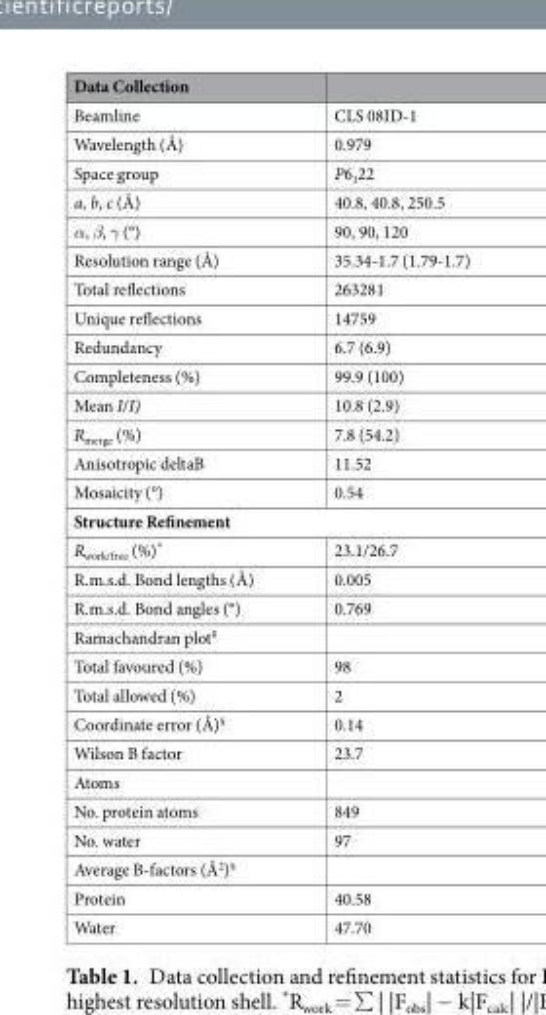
<table><thead><tr><td>Data Collection</td><td></td></tr></thead><tbody><tr><td>Beamline</td><td>CLS 08ID-1</td></tr><tr><td>Wavelength (Å)</td><td>0.979</td></tr><tr><td>Space group</td><td>P6<sub>1</sub>22</td></tr><tr><td>a, b, c (Å)</td><td>40.8, 40.8, 250.5</td></tr><tr><td>α, β, γ (°)</td><td>90, 90, 120</td></tr><tr><td>Resolution range (Å)</td><td>35.34-1.7 (1.79-1.7)</td></tr><tr><td>Total reflections</td><td>263281</td></tr><tr><td>Unique reflections</td><td>14759</td></tr><tr><td>Redundancy</td><td>6.7 (6.9)</td></tr><tr><td>Completeness (%)</td><td>99.9 (100)</td></tr><tr><td>Mean I/I)</td><td>10.8 (2.9)</td></tr><tr><td>R<sub>merge</sub> (%)</td><td>7.8 (54.2)</td></tr><tr><td>Anisotropic deltaB</td><td>11.52</td></tr><tr><td>Mosaicity (°)</td><td>0.54</td></tr><tr><td colspan="2">Structure Refinement</td></tr><tr><td>R<sub>work/free</sub> (%)*</td><td>23.1/26.7</td></tr><tr><td>R.m.s.d. Bond lengths (Å)</td><td>0.005</td></tr><tr><td>R.m.s.d. Bond angles (°)</td><td>0.769</td></tr><tr><td colspan="2">Ramachandran plot<sup>‡</sup></td></tr><tr><td>Total favoured (%)</td><td>98</td></tr><tr><td>Total allowed (%)</td><td>2</td></tr><tr><td>Coordinate error (Å)<sup>§</sup></td><td>0.14</td></tr><tr><td>Wilson B factor</td><td>23.7</td></tr><tr><td colspan="2">Atoms</td></tr><tr><td>No. protein atoms</td><td>849</td></tr><tr><td>No. water</td><td>97</td></tr><tr><td colspan="2">Average B-factors (Å<sup>2</sup>)<sup>§</sup></td></tr><tr><td>Protein</td><td>40.58</td></tr><tr><td>Water</td><td>47.70</td></tr></tbody></table>